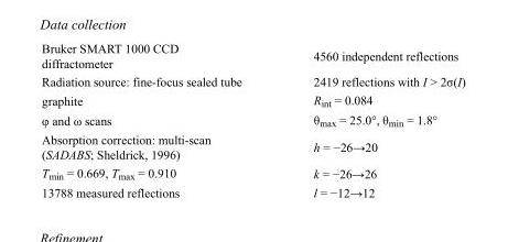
<table><tbody><tr><td>Bruker SMART 1000 CCD diffractometer</td><td>4560 independent reflections</td></tr><tr><td>Radiation source: fine-focus sealed tube</td><td>2419 reflections with I &gt; 2σ(I)</td></tr><tr><td>graphite</td><td>R<sub>int</sub> = 0.084</td></tr><tr><td>φ and ω scans</td><td>θ<sub>max</sub> = 25.0°, θ<sub>min</sub> = 1.8°</td></tr><tr><td>Absorption correction: multi-scan (SADABS; Sheldrick, 1996)</td><td>h = −26→20</td></tr><tr><td>T<sub>min</sub> = 0.669, T<sub>max</sub> = 0.910</td><td>k = −26→26</td></tr><tr><td>13788 measured reflections</td><td>l = −12→12</td></tr></tbody></table>